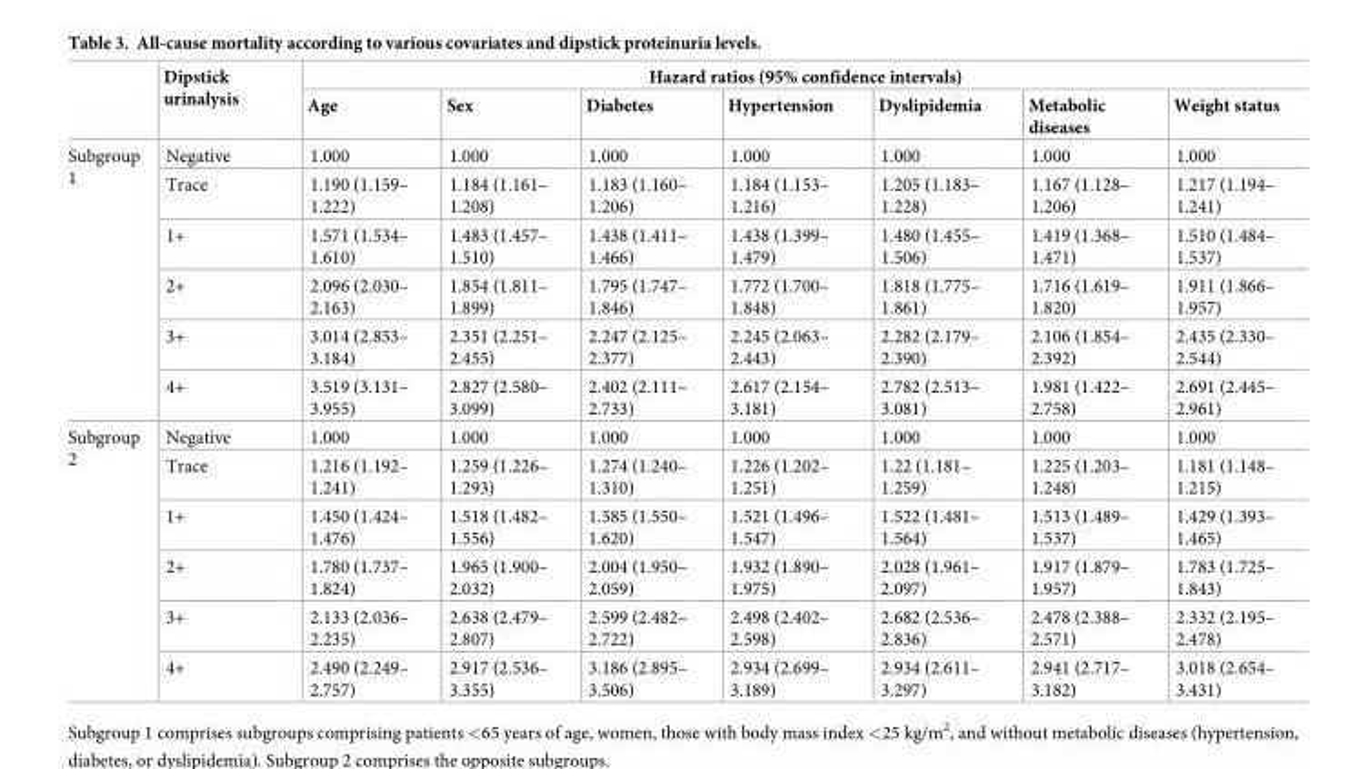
<table><thead><tr><td rowspan="2"></td><td rowspan="2">Dipstick urinalysis</td><td colspan="7">Hazard ratios (95% confidence intervals)</td></tr><tr><td>Age</td><td>Sex</td><td>Diabetes</td><td>Hypertension</td><td>Dyslipidemia</td><td>Metabolic diseases</td><td>Weight status</td></tr></thead><tbody><tr><td rowspan="6">Subgroup 1</td><td>Negative</td><td>1.000</td><td>1.000</td><td>1.000</td><td>1.000</td><td>1.000</td><td>1.000</td><td>1.000</td></tr><tr><td>Trace</td><td>1.190 (1.159– 1.222)</td><td>1.184 (1.161– 1.208)</td><td>1.183 (1.160– 1.206)</td><td>1.184 (1.153– 1.216)</td><td>1.205 (1.183– 1.228)</td><td>1.167 (1.128– 1.206)</td><td>1.217 (1.194– 1.241)</td></tr><tr><td>1+</td><td>1.571 (1.534– 1.610)</td><td>1.483 (1.457– 1.510)</td><td>1.438 (1.411– 1.466)</td><td>1.438 (1.399– 1.479)</td><td>1.480 (1.455– 1.506)</td><td>1.419 (1.368– 1.471)</td><td>1.510 (1.484– 1.537)</td></tr><tr><td>2+</td><td>2.096 (2.030– 2.163)</td><td>1.854 (1.811– 1.899)</td><td>1.795 (1.747– 1.846)</td><td>1.772 (1.700– 1.848)</td><td>1.818 (1.775– 1.861)</td><td>1.716 (1.619– 1.820)</td><td>1.911 (1.866– 1.957)</td></tr><tr><td>3+</td><td>3.014 (2.853– 3.184)</td><td>2.351 (2.251– 2.455)</td><td>2.247 (2.125– 2.377)</td><td>2.245 (2.063– 2.443)</td><td>2.282 (2.179– 2.390)</td><td>2.106 (1.854– 2.392)</td><td>2.435 (2.330– 2.544)</td></tr><tr><td>4+</td><td>3.519 (3.131– 3.955)</td><td>2.827 (2.580– 3.099)</td><td>2.402 (2.111– 2.733)</td><td>2.617 (2.154– 3.181)</td><td>2.782 (2.513– 3.081)</td><td>1.981 (1.422– 2.758)</td><td>2.691 (2.445– 2.961)</td></tr><tr><td rowspan="6">Subgroup 2</td><td>Negative</td><td>1.000</td><td>1.000</td><td>1.000</td><td>1.000</td><td>1.000</td><td>1.000</td><td>1.000</td></tr><tr><td>Trace</td><td>1.216 (1.192– 1.241)</td><td>1.259 (1.226– 1.293)</td><td>1.274 (1.240– 1.310)</td><td>1.226 (1.202– 1.251)</td><td>1.22 (1.181– 1.259)</td><td>1.225 (1.203– 1.248)</td><td>1.181 (1.148– 1.215)</td></tr><tr><td>1+</td><td>1.450 (1.424– 1.476)</td><td>1.518 (1.482– 1.556)</td><td>1.585 (1.550– 1.620)</td><td>1.521 (1.496– 1.547)</td><td>1.522 (1.481– 1.564)</td><td>1.513 (1.489– 1.537)</td><td>1.429 (1.393– 1.465)</td></tr><tr><td>2+</td><td>1.780 (1.737– 1.824)</td><td>1.965 (1.900– 2.032)</td><td>2.004 (1.950– 2.059)</td><td>1.932 (1.890– 1.975)</td><td>2.028 (1.961– 2.097)</td><td>1.917 (1.879– 1.957)</td><td>1.783 (1.725– 1.843)</td></tr><tr><td>3+</td><td>2.133 (2.036– 2.235)</td><td>2.638 (2.479– 2.807)</td><td>2.599 (2.482– 2.722)</td><td>2.498 (2.402– 2.598)</td><td>2.682 (2.536– 2.836)</td><td>2.478 (2.388– 2.571)</td><td>2.332 (2.195– 2.478)</td></tr><tr><td>4+</td><td>2.490 (2.249– 2.757)</td><td>2.917 (2.536– 3.355)</td><td>3.186 (2.895– 3.506)</td><td>2.934 (2.699– 3.189)</td><td>2.934 (2.611– 3.297)</td><td>2.941 (2.717– 3.182)</td><td>3.018 (2.654– 3.431)</td></tr></tbody></table>